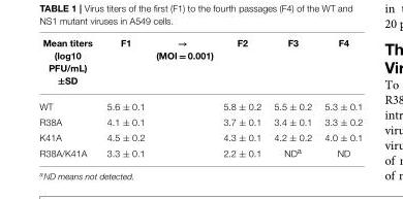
<table><thead><tr><td>Mean titers (log10 PFU/mL) ±SD</td><td>F1</td><td>→ (MOI = 0.001)</td><td>F2</td><td>F3</td><td>F4</td></tr></thead><tbody><tr><td>WT</td><td>5.6 ± 0.1</td><td></td><td>5.8 ± 0.2</td><td>5.5 ± 0.2</td><td>5.3 ± 0.1</td></tr><tr><td>R38A</td><td>4.1 ± 0.1</td><td></td><td>3.7 ± 0.1</td><td>3.4 ± 0.1</td><td>3.3 ± 0.2</td></tr><tr><td>K41A</td><td>4.5 ± 0.2</td><td></td><td>4.3 ± 0.1</td><td>4.2 ± 0.2</td><td>4.0 ± 0.1</td></tr><tr><td>R38A/K41A</td><td>3.3 ± 0.1</td><td></td><td>2.2 ± 0.1</td><td>ND<sup>a</sup></td><td>ND</td></tr></tbody></table>